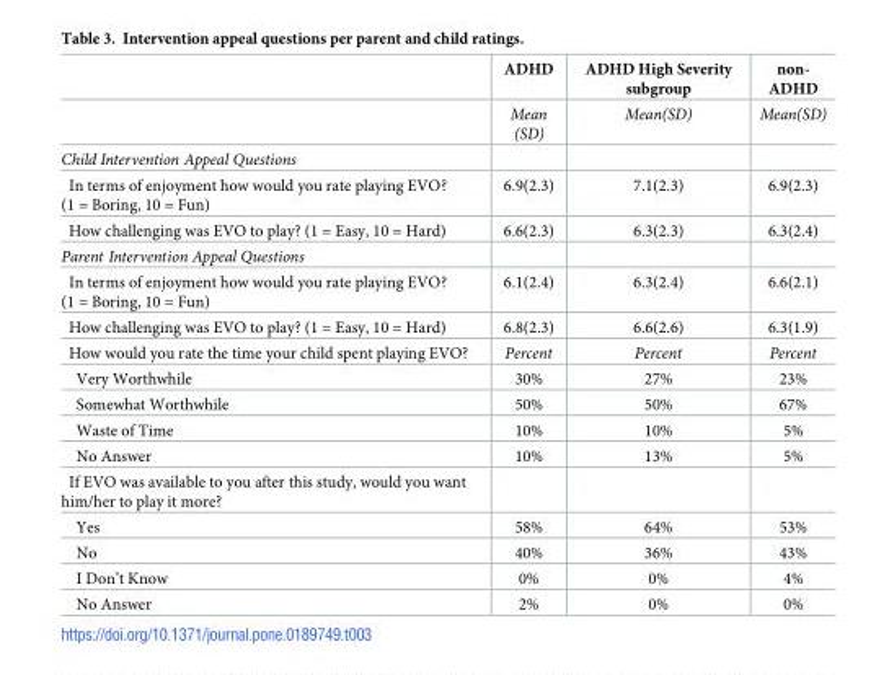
<table><thead><tr><td></td><td>ADHD</td><td>ADHD High Severity subgroup</td><td>non- ADHD</td></tr></thead><tbody><tr><td></td><td>Mean (SD)</td><td>Mean(SD)</td><td>Mean(SD)</td></tr><tr><td colspan="4">Child Intervention Appeal Questions</td></tr><tr><td>In terms of enjoyment how would you rate playing EVO? (1 = Boring, 10 = Fun)</td><td>6.9(2.3)</td><td>7.1(2.3)</td><td>6.9(2.3)</td></tr><tr><td>How challenging was EVO to play? (1 = Easy, 10 = Hard)</td><td>6.6(2.3)</td><td>6.3(2.3)</td><td>6.3(2.4)</td></tr><tr><td colspan="4">Parent Intervention Appeal Questions</td></tr><tr><td>In terms of enjoyment how would you rate playing EVO? (1 = Boring, 10 = Fun)</td><td>6.1(2.4)</td><td>6.3(2.4)</td><td>6.6(2.1)</td></tr><tr><td>How challenging was EVO to play? (1 = Easy, 10 = Hard)</td><td>6.8(2.3)</td><td>6.6(2.6)</td><td>6.3(1.9)</td></tr><tr><td>How would you rate the time your child spent playing EVO?</td><td>Percent</td><td>Percent</td><td>Percent</td></tr><tr><td>Very Worthwhile</td><td>30%</td><td>27%</td><td>23%</td></tr><tr><td>Somewhat Worthwhile</td><td>50%</td><td>50%</td><td>67%</td></tr><tr><td>Waste of Time</td><td>10%</td><td>10%</td><td>5%</td></tr><tr><td>No Answer</td><td>10%</td><td>13%</td><td>5%</td></tr><tr><td colspan="4">If EVO was available to you after this study, would you want him/her to play it more?</td></tr><tr><td>Yes</td><td>58%</td><td>64%</td><td>53%</td></tr><tr><td>No</td><td>40%</td><td>36%</td><td>43%</td></tr><tr><td>I Don’t Know</td><td>0%</td><td>0%</td><td>4%</td></tr><tr><td>No Answer</td><td>2%</td><td>0%</td><td>0%</td></tr></tbody></table>